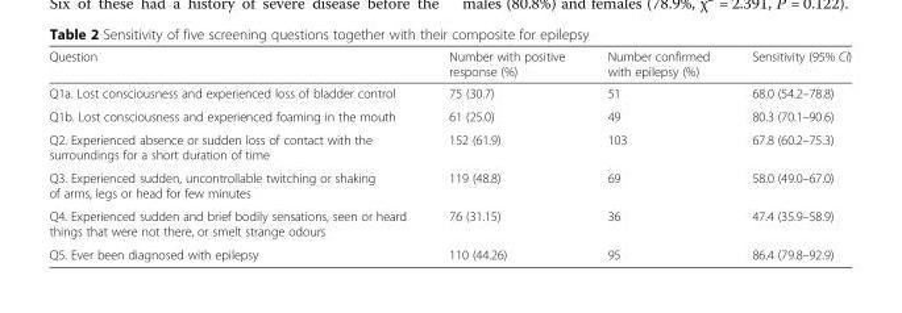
<table><thead><tr><td>Question</td><td>Number with positive response (%)</td><td>Number confirmed with epilepsy (%)</td><td>Sensitivity (95% CI)</td></tr></thead><tbody><tr><td>Q1a. Lost consciousness and experienced loss of bladder control</td><td>75 (30.7)</td><td>51</td><td>68.0 (54.2–78.8)</td></tr><tr><td>Q1b. Lost consciousness and experienced foaming in the mouth</td><td>61 (25.0)</td><td>49</td><td>80.3 (70.1–90.6)</td></tr><tr><td>Q2. Experienced absence or sudden loss of contact with the surroundings for a short duration of time</td><td>152 (61.9)</td><td>103</td><td>67.8 (60.2–75.3)</td></tr><tr><td>Q3. Experienced sudden, uncontrollable twitching or shaking of arms, legs or head for few minutes</td><td>119 (48.8)</td><td>69</td><td>58.0 (49.0–67.0)</td></tr><tr><td>Q4. Experienced sudden and brief bodily sensations, seen or heard things that were not there, or smelt strange odours</td><td>76 (31.15)</td><td>36</td><td>47.4 (35.9–58.9)</td></tr><tr><td>Q5. Ever been diagnosed with epilepsy</td><td>110 (44.26)</td><td>95</td><td>86.4 (79.8–92.9)</td></tr></tbody></table>